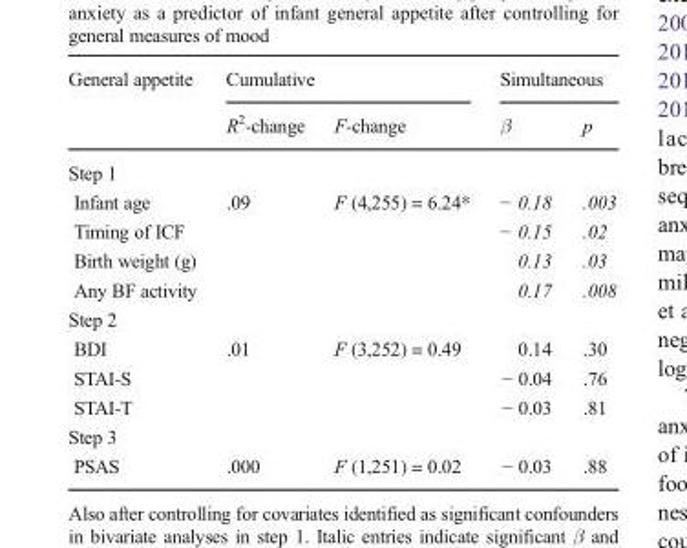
<table><thead><tr><td rowspan="2">General appetite</td><td colspan="2">Cumulative</td><td colspan="2">Simultaneous</td></tr><tr><td>R<sup>2</sup>-change</td><td>F-change</td><td>β</td><td>p</td></tr></thead><tbody><tr><td colspan="5">Step 1</td></tr><tr><td>Infant age</td><td rowspan="4">.09</td><td rowspan="4">F (4,255) = 6.24*</td><td>− 0.18</td><td>.003</td></tr><tr><td>Timing of ICF</td><td>− 0.15</td><td>.02</td></tr><tr><td>Birth weight (g)</td><td>0.13</td><td>.03</td></tr><tr><td>Any BF activity</td><td>0.17</td><td>.008</td></tr><tr><td colspan="5">Step 2</td></tr><tr><td>BDI</td><td rowspan="3">.01</td><td rowspan="3">F (3,252) = 0.49</td><td>0.14</td><td>.30</td></tr><tr><td>STAI-S</td><td>− 0.04</td><td>.76</td></tr><tr><td>STAI-T</td><td>− 0.03</td><td>.81</td></tr><tr><td colspan="5">Step 3</td></tr><tr><td>PSAS</td><td>.000</td><td>F (1,251) = 0.02</td><td>− 0.03</td><td>.88</td></tr></tbody></table>